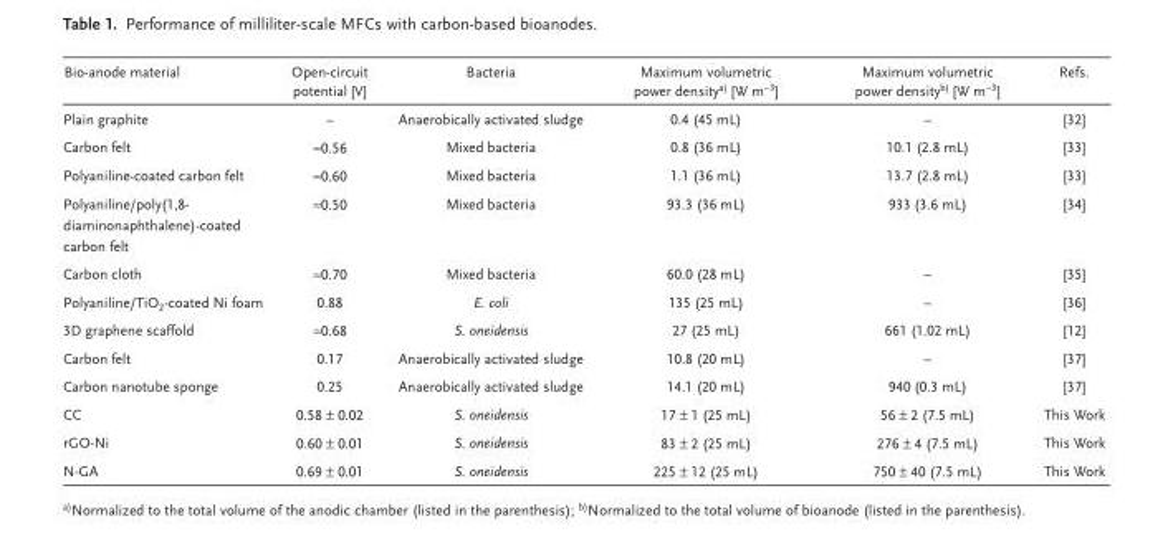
<table><thead><tr><td>Bio-anode material</td><td>Open-circuit potential [V]</td><td>Bacteria</td><td>Maximum volumetric power density a) [W m <sup>−3</sup> ]</td><td>Maximum volumetric power density b) [W m <sup>−3</sup> ]</td><td>Refs.</td></tr></thead><tbody><tr><td>Plain graphite</td><td>–</td><td>Anaerobically activated sludge</td><td>0.4 (45 mL)</td><td>–</td><td>[ 32 ]</td></tr><tr><td>Carbon felt</td><td>≈0.56</td><td>Mixed bacteria</td><td>0.8 (36 mL)</td><td>10.1 (2.8 mL)</td><td>[ 33 ]</td></tr><tr><td>Polyaniline-coated carbon felt</td><td>≈0.60</td><td>Mixed bacteria</td><td>1.1 (36 mL)</td><td>13.7 (2.8 mL)</td><td>[ 33 ]</td></tr><tr><td>Polyaniline/poly(1,8- diaminonaphthalene)-coated carbon felt</td><td>≈0.50</td><td>Mixed bacteria</td><td>93.3 (36 mL)</td><td>933 (3.6 mL)</td><td>[ 34 ]</td></tr><tr><td>Carbon cloth</td><td>≈0.70</td><td>Mixed bacteria</td><td>60.0 (28 mL)</td><td>–</td><td>[ 35 ]</td></tr><tr><td>Polyaniline/TiO <sub>2</sub> -coated Ni foam</td><td>0.88</td><td>E. coli</td><td>135 (25 mL)</td><td>–</td><td>[ 36 ]</td></tr><tr><td>3D graphene scaffold</td><td>≈0.68</td><td>S. oneidensis</td><td>27 (25 mL)</td><td>661 (1.02 mL)</td><td>[ 12 ]</td></tr><tr><td>Carbon felt</td><td>0.17</td><td>Anaerobically activated sludge</td><td>10.8 (20 mL)</td><td>–</td><td>[ 37 ]</td></tr><tr><td>Carbon nanotube sponge</td><td>0.25</td><td>Anaerobically activated sludge</td><td>14.1 (20 mL)</td><td>940 (0.3 mL)</td><td>[ 37 ]</td></tr><tr><td>CC</td><td>0.58 ± 0.02</td><td>S. oneidensis</td><td>17 ± 1 (25 mL)</td><td>56 ± 2 (7.5 mL)</td><td>This Work</td></tr><tr><td>rGO-Ni</td><td>0.60 ± 0.01</td><td>S. oneidensis</td><td>83 ± 2 (25 mL)</td><td>276 ± 4 (7.5 mL)</td><td>This Work</td></tr><tr><td>N-GA</td><td>0.69 ± 0.01</td><td>S. oneidensis</td><td>225 ± 12 (25 mL)</td><td>750 ± 40 (7.5 mL)</td><td>This Work</td></tr></tbody></table>